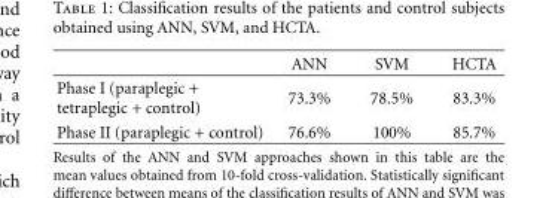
<table><thead><tr><td></td><td>ANN</td><td>SVM</td><td>HCTA</td></tr></thead><tbody><tr><td>Phase I (paraplegic + tetraplegic + control)</td><td>73.3%</td><td>78.5%</td><td>83.3%</td></tr><tr><td>Phase II (paraplegic + control)</td><td>76.6%</td><td>100%</td><td>85.7%</td></tr></tbody></table>